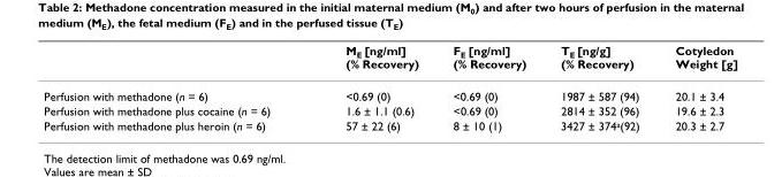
<table><thead><tr><td></td><td>M<sub>E</sub> [ng/ml] (% Recovery)</td><td>F<sub>E</sub> [ng/ml] (% Recovery)</td><td>T<sub>E</sub> [ng/g] (% Recovery)</td><td>Cotyledon Weight [g]</td></tr></thead><tbody><tr><td>Perfusion with methadone (n = 6)</td><td>&lt;0.69 (0)</td><td>&lt;0.69 (0)</td><td>1987 ± 587 (94)</td><td>20.1 ± 3.4</td></tr><tr><td>Perfusion with methadone plus cocaine (n = 6)</td><td>1.6 ± 1.1 (0.6)</td><td>&lt;0.69 (0)</td><td>2814 ± 352 (96)</td><td>19.6 ± 2.3</td></tr><tr><td>Perfusion with methadone plus heroin (n = 6)</td><td>57 ± 22 (6)</td><td>8 ± 10 (1)</td><td>3427 ± 374<sup>a</sup>(92)</td><td>20.3 ± 2.7</td></tr></tbody></table>